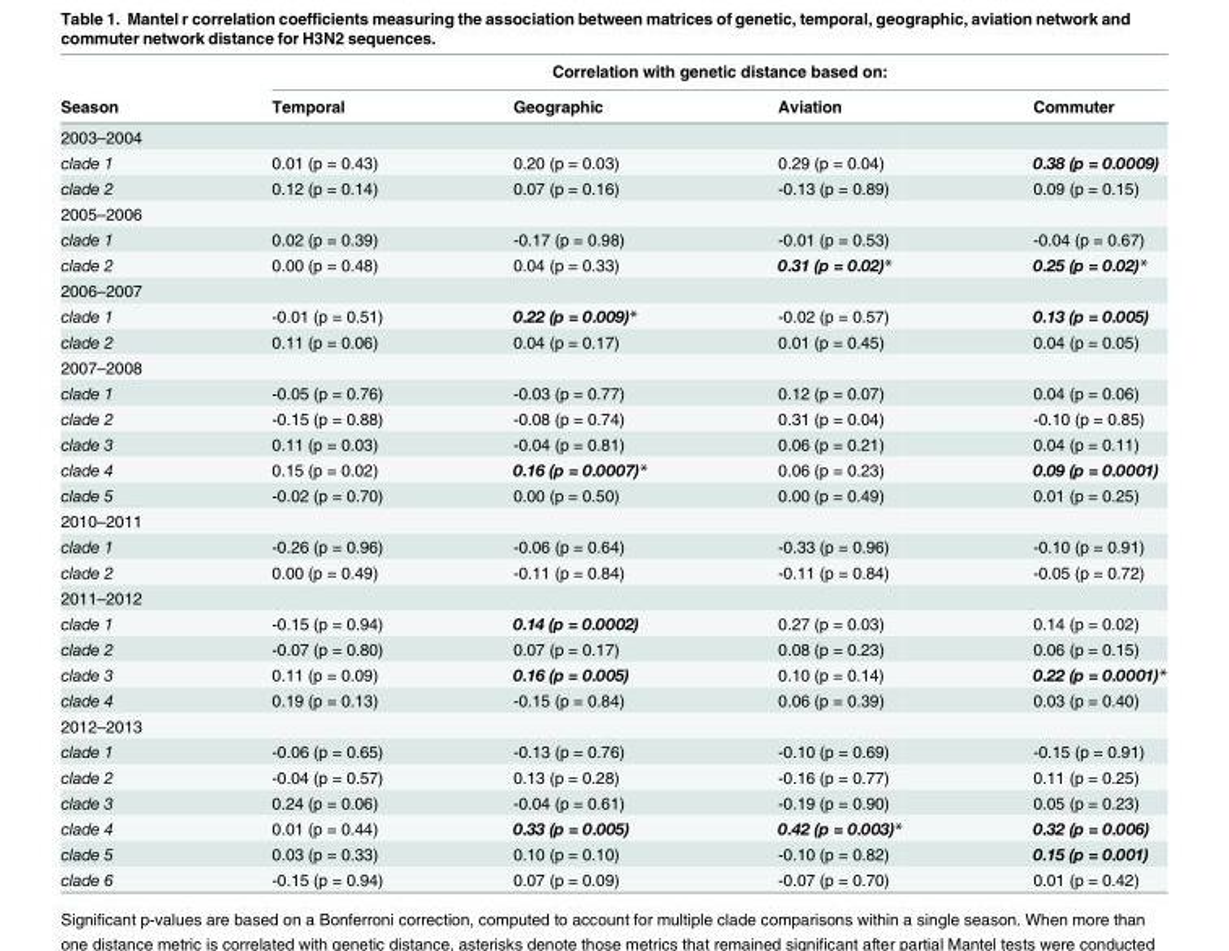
<table><thead><tr><td rowspan="2">Season</td><td colspan="4">Correlation with genetic distance based on:</td></tr><tr><td>Temporal</td><td>Geographic</td><td>Aviation</td><td>Commuter</td></tr></thead><tbody><tr><td colspan="5">2003–2004</td></tr><tr><td>clade 1</td><td>0.01 (p = 0.43)</td><td>0.20 (p = 0.03)</td><td>0.29 (p = 0.04)</td><td>0.38 (p = 0.0009)</td></tr><tr><td>clade 2</td><td>0.12 (p = 0.14)</td><td>0.07 (p = 0.16)</td><td>-0.13 (p = 0.89)</td><td>0.09 (p = 0.15)</td></tr><tr><td colspan="5">2005–2006</td></tr><tr><td>clade 1</td><td>0.02 (p = 0.39)</td><td>-0.17 (p = 0.98)</td><td>-0.01 (p = 0.53)</td><td>-0.04 (p = 0.67)</td></tr><tr><td>clade 2</td><td>0.00 (p = 0.48)</td><td>0.04 (p = 0.33)</td><td>0.31 (p = 0.02)*</td><td>0.25 (p = 0.02)*</td></tr><tr><td colspan="5">2006–2007</td></tr><tr><td>clade 1</td><td>-0.01 (p = 0.51)</td><td>0.22 (p = 0.009)*</td><td>-0.02 (p = 0.57)</td><td>0.13 (p = 0.005)</td></tr><tr><td>clade 2</td><td>0.11 (p = 0.06)</td><td>0.04 (p = 0.17)</td><td>0.01 (p = 0.45)</td><td>0.04 (p = 0.05)</td></tr><tr><td colspan="5">2007–2008</td></tr><tr><td>clade 1</td><td>-0.05 (p = 0.76)</td><td>-0.03 (p = 0.77)</td><td>0.12 (p = 0.07)</td><td>0.04 (p = 0.06)</td></tr><tr><td>clade 2</td><td>-0.15 (p = 0.88)</td><td>-0.08 (p = 0.74)</td><td>0.31 (p = 0.04)</td><td>-0.10 (p = 0.85)</td></tr><tr><td>clade 3</td><td>0.11 (p = 0.03)</td><td>-0.04 (p = 0.81)</td><td>0.06 (p = 0.21)</td><td>0.04 (p = 0.11)</td></tr><tr><td>clade 4</td><td>0.15 (p = 0.02)</td><td>0.16 (p = 0.0007)*</td><td>0.06 (p = 0.23)</td><td>0.09 (p = 0.0001)</td></tr><tr><td>clade 5</td><td>-0.02 (p = 0.70)</td><td>0.00 (p = 0.50)</td><td>0.00 (p = 0.49)</td><td>0.01 (p = 0.25)</td></tr><tr><td colspan="5">2010–2011</td></tr><tr><td>clade 1</td><td>-0.26 (p = 0.96)</td><td>-0.06 (p = 0.64)</td><td>-0.33 (p = 0.96)</td><td>-0.10 (p = 0.91)</td></tr><tr><td>clade 2</td><td>0.00 (p = 0.49)</td><td>-0.11 (p = 0.84)</td><td>-0.11 (p = 0.84)</td><td>-0.05 (p = 0.72)</td></tr><tr><td colspan="5">2011–2012</td></tr><tr><td>clade 1</td><td>-0.15 (p = 0.94)</td><td>0.14 (p = 0.0002)</td><td>0.27 (p = 0.03)</td><td>0.14 (p = 0.02)</td></tr><tr><td>clade 2</td><td>-0.07 (p = 0.80)</td><td>0.07 (p = 0.17)</td><td>0.08 (p = 0.23)</td><td>0.06 (p = 0.15)</td></tr><tr><td>clade 3</td><td>0.11 (p = 0.09)</td><td>0.16 (p = 0.005)</td><td>0.10 (p = 0.14)</td><td>0.22 (p = 0.0001)*</td></tr><tr><td>clade 4</td><td>0.19 (p = 0.13)</td><td>-0.15 (p = 0.84)</td><td>0.06 (p = 0.39)</td><td>0.03 (p = 0.40)</td></tr><tr><td colspan="5">2012–2013</td></tr><tr><td>clade 1</td><td>-0.06 (p = 0.65)</td><td>-0.13 (p = 0.76)</td><td>-0.10 (p = 0.69)</td><td>-0.15 (p = 0.91)</td></tr><tr><td>clade 2</td><td>-0.04 (p = 0.57)</td><td>0.13 (p = 0.28)</td><td>-0.16 (p = 0.77)</td><td>0.11 (p = 0.25)</td></tr><tr><td>clade 3</td><td>0.24 (p = 0.06)</td><td>-0.04 (p = 0.61)</td><td>-0.19 (p = 0.90)</td><td>0.05 (p = 0.23)</td></tr><tr><td>clade 4</td><td>0.01 (p = 0.44)</td><td>0.33 (p = 0.005)</td><td>0.42 (p = 0.003)*</td><td>0.32 (p = 0.006)</td></tr><tr><td>clade 5</td><td>0.03 (p = 0.33)</td><td>0.10 (p = 0.10)</td><td>-0.10 (p = 0.82)</td><td>0.15 (p = 0.001)</td></tr><tr><td>clade 6</td><td>-0.15 (p = 0.94)</td><td>0.07 (p = 0.09)</td><td>-0.07 (p = 0.70)</td><td>0.01 (p = 0.42)</td></tr></tbody></table>